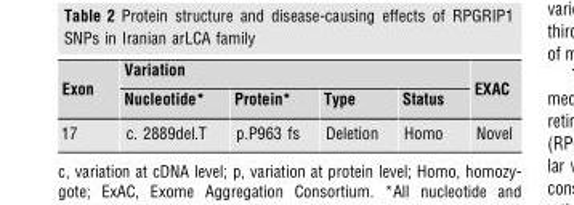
<table><thead><tr><td rowspan="2">Exon</td><td colspan="4">Variation</td><td rowspan="2">EXAC</td></tr><tr><td>Nucleotide*</td><td>Protein*</td><td>Type</td><td>Status</td></tr></thead><tbody><tr><td>17</td><td>c. 2889del.T</td><td>p.P963 fs</td><td>Deletion</td><td>Homo</td><td>Novel</td></tr></tbody></table>